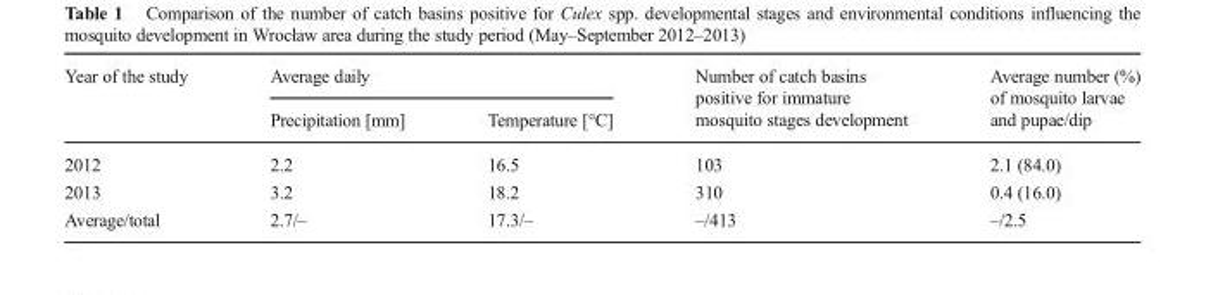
<table><thead><tr><td rowspan="2">Year of the study</td><td colspan="2">Average daily</td><td rowspan="2">Number of catch basins positive for immature mosquito stages development</td><td rowspan="2">Average number (%) of mosquito larvae and pupae/dip</td></tr><tr><td>Precipitation [mm]</td><td>Temperature [°C]</td></tr></thead><tbody><tr><td>2012</td><td>2.2</td><td>16.5</td><td>103</td><td>2.1 (84.0)</td></tr><tr><td>2013</td><td>3.2</td><td>18.2</td><td>310</td><td>0.4 (16.0)</td></tr><tr><td>Average/total</td><td>2.7/–</td><td>17.3/–</td><td>–/413</td><td>–/2.5</td></tr></tbody></table>